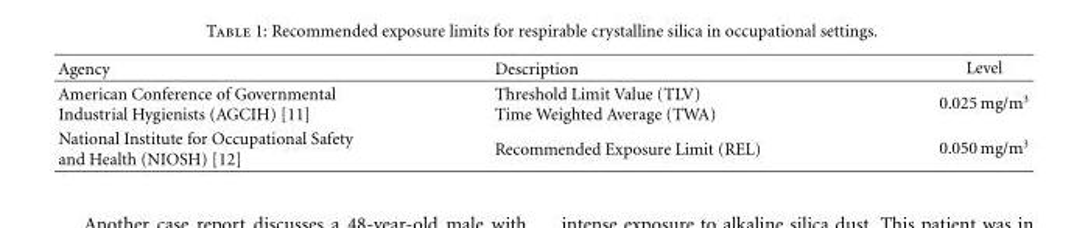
<table><thead><tr><td>Agency</td><td>Description</td><td>Level</td></tr></thead><tbody><tr><td>American Conference of Governmental Industrial Hygienists (AGCIH) [11]</td><td>Threshold Limit Value (TLV) Time Weighted Average (TWA)</td><td>0.025 mg/m<sup>3</sup></td></tr><tr><td>National Institute for Occupational Safety and Health (NIOSH) [12]</td><td>Recommended Exposure Limit (REL)</td><td>0.050 mg/m<sup>3</sup></td></tr></tbody></table>